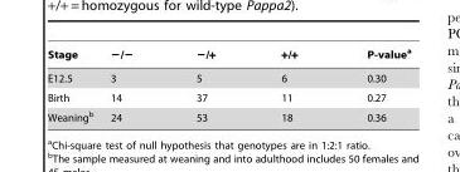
<table><thead><tr><td>Stage</td><td>−/−</td><td>−/+</td><td>+/+</td><td>P-value<sup>a</sup></td></tr></thead><tbody><tr><td>E12.5</td><td>3</td><td>5</td><td>6</td><td>0.30</td></tr><tr><td>Birth</td><td>14</td><td>37</td><td>11</td><td>0.27</td></tr><tr><td>Weaning<sup>b</sup></td><td>24</td><td>53</td><td>18</td><td>0.36</td></tr></tbody></table>